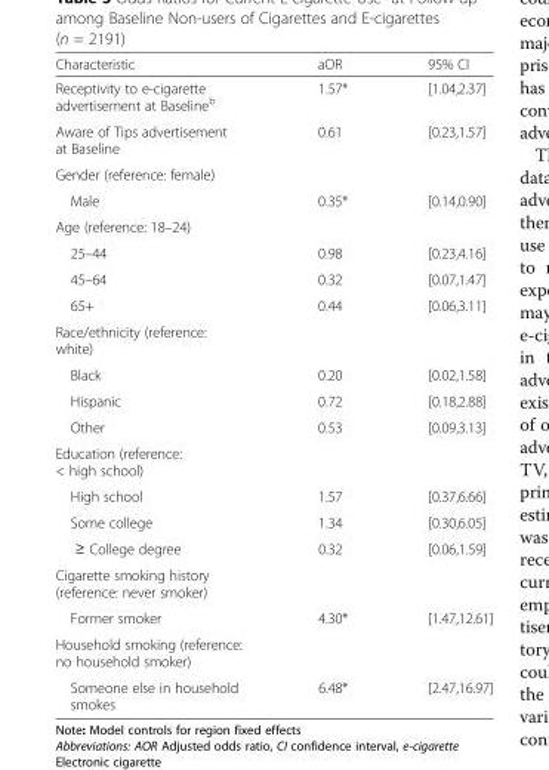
<table><thead><tr><td>Characteristic</td><td>aOR</td><td>95% CI</td></tr></thead><tbody><tr><td>Receptivity to e-cigarette advertisement at Baseline<sup>b</sup></td><td>1.57*</td><td>[1.04,2.37]</td></tr><tr><td>Aware of Tips advertisement at Baseline</td><td>0.61</td><td>[0.23,1.57]</td></tr><tr><td colspan="3">Gender (reference: female)</td></tr><tr><td>Male</td><td>0.35*</td><td>[0.14,0.90]</td></tr><tr><td colspan="3">Age (reference: 18–24)</td></tr><tr><td>25–44</td><td>0.98</td><td>[0.23,4.16]</td></tr><tr><td>45–64</td><td>0.32</td><td>[0.07,1.47]</td></tr><tr><td>65+</td><td>0.44</td><td>[0.06,3.11]</td></tr><tr><td colspan="3">Race/ethnicity (reference: white)</td></tr><tr><td>Black</td><td>0.20</td><td>[0.02,1.58]</td></tr><tr><td>Hispanic</td><td>0.72</td><td>[0.18,2.88]</td></tr><tr><td>Other</td><td>0.53</td><td>[0.09,3.13]</td></tr><tr><td colspan="3">Education (reference: &lt; high school)</td></tr><tr><td>High school</td><td>1.57</td><td>[0.37,6.66]</td></tr><tr><td>Some college</td><td>1.34</td><td>[0.30,6.05]</td></tr><tr><td>≥ College degree</td><td>0.32</td><td>[0.06,1.59]</td></tr><tr><td colspan="3">Cigarette smoking history (reference: never smoker)</td></tr><tr><td>Former smoker</td><td>4.30*</td><td>[1.47,12.61]</td></tr><tr><td colspan="3">Household smoking (reference: no household smoker)</td></tr><tr><td>Someone else in household smokes</td><td>6.48*</td><td>[2.47,16.97]</td></tr></tbody></table>